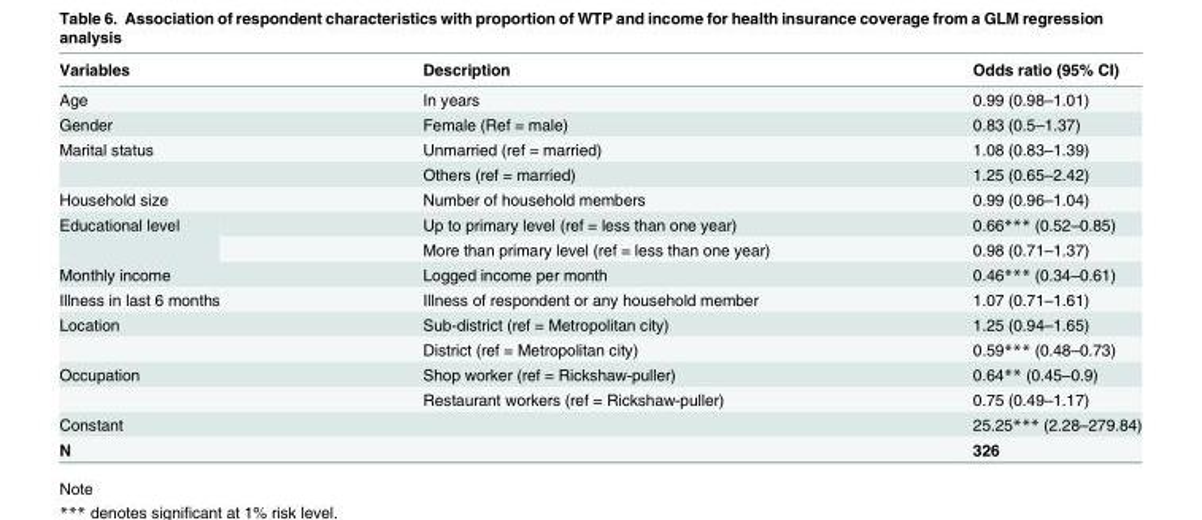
<table><thead><tr><td>Variables</td><td>Description</td><td>Odds ratio (95% CI)</td></tr></thead><tbody><tr><td>Age</td><td>In years</td><td>0.99 (0.98–1.01)</td></tr><tr><td>Gender</td><td>Female (Ref = male)</td><td>0.83 (0.5–1.37)</td></tr><tr><td rowspan="2">Marital status</td><td>Unmarried (ref = married)</td><td>1.08 (0.83–1.39)</td></tr><tr><td>Others (ref = married)</td><td>1.25 (0.65–2.42)</td></tr><tr><td>Household size</td><td>Number of household members</td><td>0.99 (0.96–1.04)</td></tr><tr><td rowspan="2">Educational level</td><td>Up to primary level (ref = less than one year)</td><td>0.66*** (0.52–0.85)</td></tr><tr><td>More than primary level (ref = less than one year)</td><td>0.98 (0.71–1.37)</td></tr><tr><td>Monthly income</td><td>Logged income per month</td><td>0.46*** (0.34–0.61)</td></tr><tr><td>Illness in last 6 months</td><td>Illness of respondent or any household member</td><td>1.07 (0.71–1.61)</td></tr><tr><td rowspan="2">Location</td><td>Sub-district (ref = Metropolitan city)</td><td>1.25 (0.94–1.65)</td></tr><tr><td>District (ref = Metropolitan city)</td><td>0.59*** (0.48–0.73)</td></tr><tr><td rowspan="2">Occupation</td><td>Shop worker (ref = Rickshaw-puller)</td><td>0.64** (0.45–0.9)</td></tr><tr><td>Restaurant workers (ref = Rickshaw-puller)</td><td>0.75 (0.49–1.17)</td></tr><tr><td>Constant</td><td></td><td>25.25*** (2.28–279.84)</td></tr><tr><td>N</td><td></td><td>326</td></tr></tbody></table>